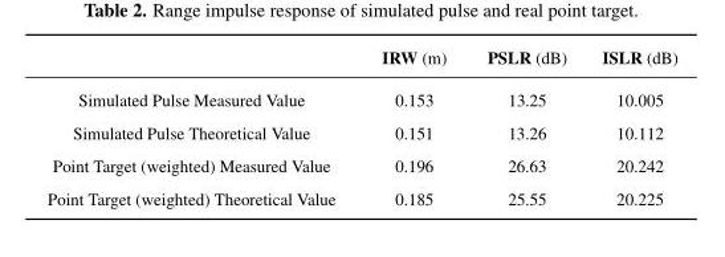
<table><thead><tr><td></td><td>IRW (m)</td><td>PSLR (dB)</td><td>ISLR (dB)</td></tr></thead><tbody><tr><td>Simulated Pulse Measured Value</td><td>0.153</td><td>13.25</td><td>10.005</td></tr><tr><td>Simulated Pulse Theoretical Value</td><td>0.151</td><td>13.26</td><td>10.112</td></tr><tr><td>Point Target (weighted) Measured Value</td><td>0.196</td><td>26.63</td><td>20.242</td></tr><tr><td>Point Target (weighted) Theoretical Value</td><td>0.185</td><td>25.55</td><td>20.225</td></tr></tbody></table>